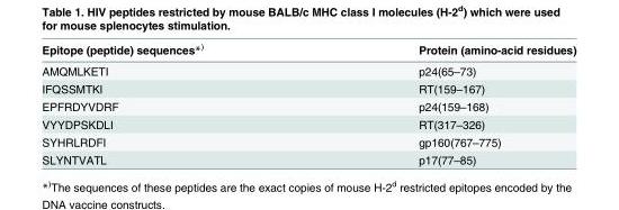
<table><thead><tr><td>Epitope (peptide) sequences*<sup>)</sup></td><td>Protein (amino-acid residues)</td></tr></thead><tbody><tr><td>AMQMLKETI</td><td>p24(65–73)</td></tr><tr><td>IFQSSMTKI</td><td>RT(159–167)</td></tr><tr><td>EPFRDYVDRF</td><td>p24(159–168)</td></tr><tr><td>VYYDPSKDLI</td><td>RT(317–326)</td></tr><tr><td>SYHRLRDFI</td><td>gp160(767–775)</td></tr><tr><td>SLYNTVATL</td><td>p17(77–85)</td></tr></tbody></table>